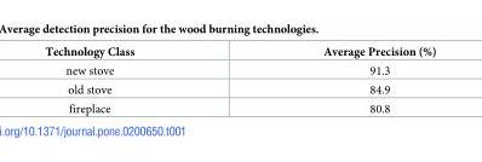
<table><thead><tr><td>Technology Class</td><td>Average Precision (%)</td></tr></thead><tbody><tr><td>new stove</td><td>91.3</td></tr><tr><td>old stove</td><td>84.9</td></tr><tr><td>fireplace</td><td>80.8</td></tr></tbody></table>